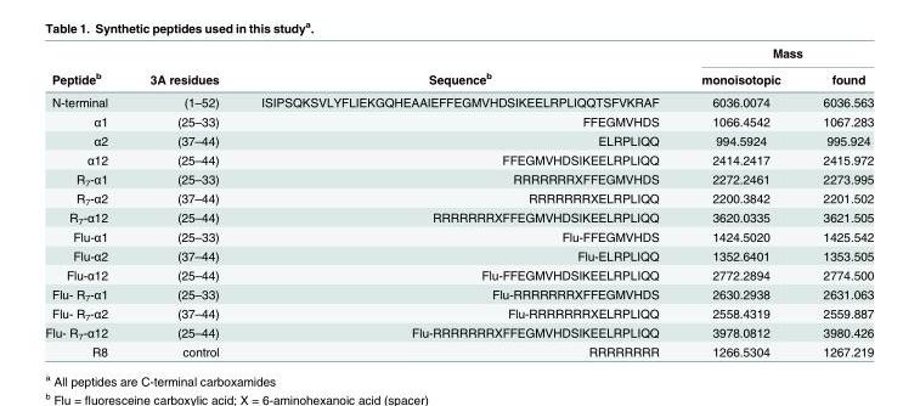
<table><thead><tr><td rowspan="2">Peptide<sup>b</sup></td><td rowspan="2">3A residues</td><td rowspan="2">Sequence<sup>b</sup></td><td colspan="2">Mass</td></tr><tr><td>monoisotopic</td><td>found</td></tr></thead><tbody><tr><td>N-terminal</td><td>(1–52)</td><td>ISIPSQKSVLYFLIEKGQHEAAIEFFEGMVHDSIKEELRPLIQQTSFVKRAF</td><td>6036.0074</td><td>6036.563</td></tr><tr><td>α1</td><td>(25–33)</td><td>FFEGMVHDS</td><td>1066.4542</td><td>1067.283</td></tr><tr><td>α2</td><td>(37–44)</td><td>ELRPLIQQ</td><td>994.5924</td><td>995.924</td></tr><tr><td>α12</td><td>(25–44)</td><td>FFEGMVHDSIKEELRPLIQQ</td><td>2414.2417</td><td>2415.972</td></tr><tr><td>R<sub>7</sub>-α1</td><td>(25–33)</td><td>RRRRRRRXFFEGMVHDS</td><td>2272.2461</td><td>2273.995</td></tr><tr><td>R<sub>7</sub>-α2</td><td>(37–44)</td><td>RRRRRRRXELRPLIQQ</td><td>2200.3842</td><td>2201.502</td></tr><tr><td>R<sub>7</sub>-α12</td><td>(25–44)</td><td>RRRRRRRXFFEGMVHDSIKEELRPLIQQ</td><td>3620.0335</td><td>3621.505</td></tr><tr><td>Flu-α1</td><td>(25–33)</td><td>Flu-FFEGMVHDS</td><td>1424.5020</td><td>1425.542</td></tr><tr><td>Flu-α2</td><td>(37–44)</td><td>Flu-ELRPLIQQ</td><td>1352.6401</td><td>1353.505</td></tr><tr><td>Flu-α12</td><td>(25–44)</td><td>Flu-FFEGMVHDSIKEELRPLIQQ</td><td>2772.2894</td><td>2774.500</td></tr><tr><td>Flu- R<sub>7</sub>-α1</td><td>(25–33)</td><td>Flu-RRRRRRRXFFEGMVHDS</td><td>2630.2938</td><td>2631.063</td></tr><tr><td>Flu- R<sub>7</sub>-α2</td><td>(37–44)</td><td>Flu-RRRRRRRXELRPLIQQ</td><td>2558.4319</td><td>2559.887</td></tr><tr><td>Flu- R<sub>7</sub>-α12</td><td>(25–44)</td><td>Flu-RRRRRRRXFFEGMVHDSIKEELRPLIQQ</td><td>3978.0812</td><td>3980.426</td></tr><tr><td>R8</td><td>control</td><td>RRRRRRRR</td><td>1266.5304</td><td>1267.219</td></tr></tbody></table>